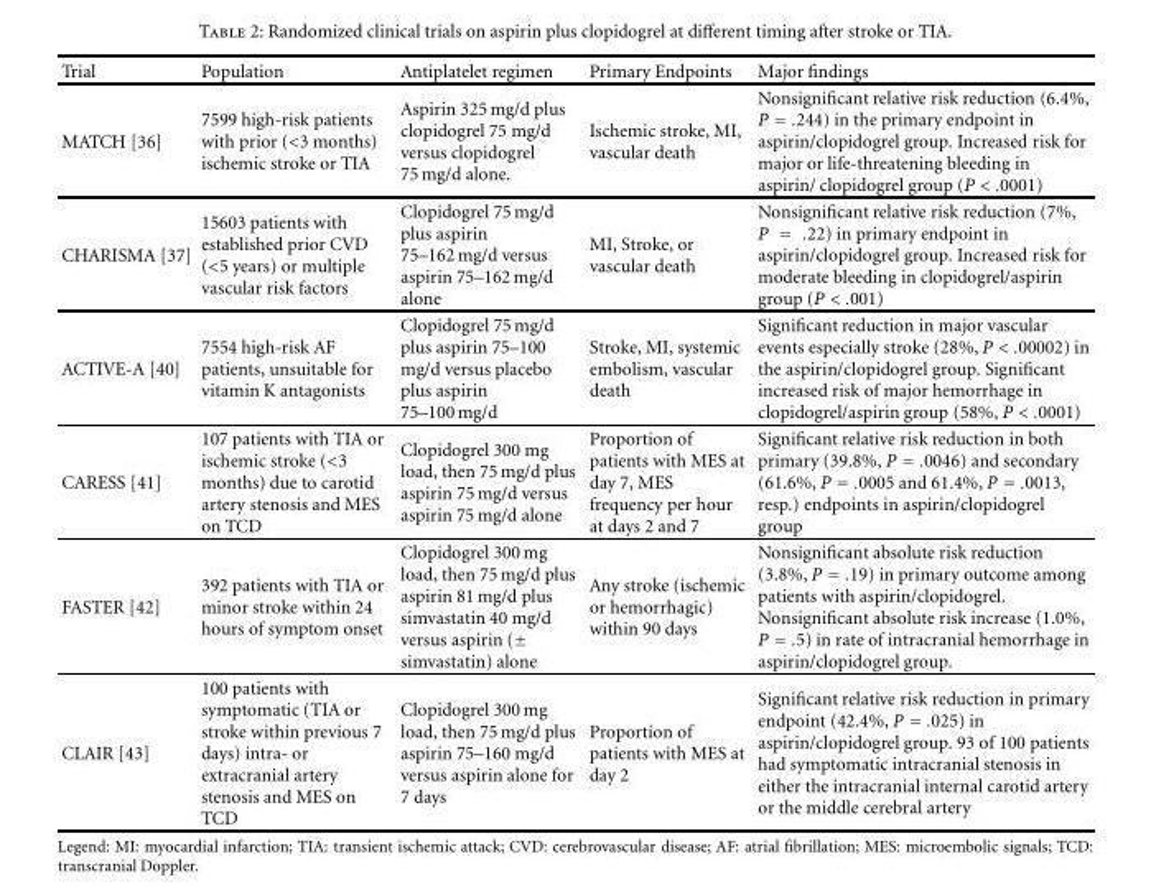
<table><thead><tr><td>Trial</td><td>Population</td><td>Antiplatelet regimen</td><td>Primary Endpoints</td><td>Major findings</td></tr></thead><tbody><tr><td>MATCH [36]</td><td>7599 high-risk patients with prior (&lt;3 months) ischemic stroke or TIA</td><td>Aspirin 325 mg/d plus clopidogrel 75 mg/d versus clopidogrel 75 mg/d alone.</td><td>Ischemic stroke, MI, vascular death</td><td>Nonsignificant relative risk reduction (6.4%, P = .244) in the primary endpoint in aspirin/clopidogrel group. Increased risk for major or life-threatening bleeding in aspirin/ clopidogrel group (P &lt; .0001)</td></tr><tr><td>CHARISMA [37]</td><td>15603 patients with established prior CVD (&lt;5 years) or multiple vascular risk factors</td><td>Clopidogrel 75 mg/d plus aspirin 75–162 mg/d versus aspirin 75–162 mg/d alone</td><td>MI, Stroke, or vascular death</td><td>Nonsignificant relative risk reduction (7%, P = .22) in primary endpoint in aspirin/clopidogrel group. Increased risk for moderate bleeding in clopidogrel/aspirin group (P &lt; .001)</td></tr><tr><td>ACTIVE-A [40]</td><td>7554 high-risk AF patients, unsuitable for vitamin K antagonists</td><td>Clopidogrel 75 mg/d plus aspirin 75–100 mg/d versus placebo plus aspirin 75–100 mg/d</td><td>Stroke, MI, systemic embolism, vascular death</td><td>Significant reduction in major vascular events especially stroke (28%, P &lt; .00002) in the aspirin/clopidogrel group. Significant increased risk of major hemorrhage in clopidogrel/aspirin group (58%, P &lt; .0001)</td></tr><tr><td>CARESS [41]</td><td>107 patients with TIA or ischemic stroke (&lt;3 months) due to carotid artery stenosis and MES on TCD</td><td>Clopidogrel 300 mg load, then 75 mg/d plus aspirin 75 mg/d versus aspirin 75 mg/d alone</td><td>Proportion of patients with MES at day 7, MES frequency per hour at days 2 and 7</td><td>Significant relative risk reduction in both primary (39.8%, P = .0046) and secondary (61.6%, P = .0005 and 61.4%, P = .0013, resp.) endpoints in aspirin/clopidogrel group</td></tr><tr><td>FASTER [42]</td><td>392 patients with TIA or minor stroke within 24 hours of symptom onset</td><td>Clopidogrel 300 mg load, then 75 mg/d plus aspirin 81 mg/d plus simvastatin 40 mg/d versus aspirin (± simvastatin) alone</td><td>Any stroke (ischemic or hemorrhagic) within 90 days</td><td>Nonsignificant absolute risk reduction (3.8%, P = .19) in primary outcome among patients with aspirin/clopidogrel. Nonsignificant absolute risk increase (1.0%, P = .5) in rate of intracranial hemorrhage in aspirin/clopidogrel group.</td></tr><tr><td>CLAIR [43]</td><td>100 patients with symptomatic (TIA or stroke within previous 7 days) intra- or extracranial artery stenosis and MES on TCD</td><td>Clopidogrel 300 mg load, then 75 mg/d plus aspirin 75–160 mg/d versus aspirin alone for 7 days</td><td>Proportion of patients with MES at day 2</td><td>Significant relative risk reduction in primary endpoint (42.4%, P = .025) in aspirin/clopidogrel group. 93 of 100 patients had symptomatic intracranial stenosis in either the intracranial internal carotid artery or the middle cerebral artery</td></tr></tbody></table>